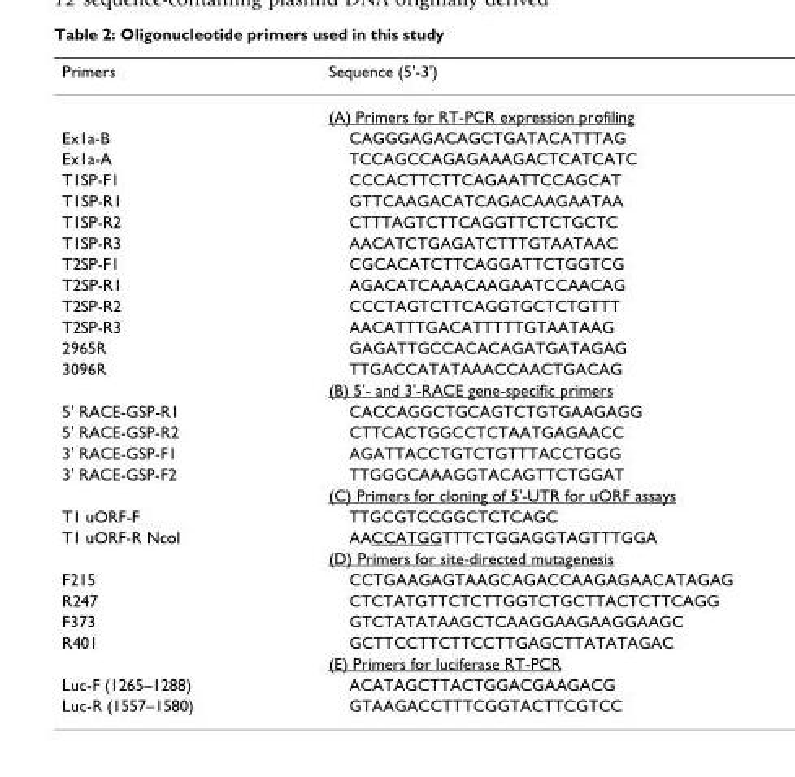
<table><thead><tr><td>Primers</td><td>Sequence (5&#x27;-3&#x27;)</td></tr></thead><tbody><tr><td></td><td>(A) Primers for RT-PCR expression profiling</td></tr><tr><td>Ex1a-B</td><td>CAGGGAGACAGCTGATACATTTAG</td></tr><tr><td>Ex1a-A</td><td>TCCAGCCAGAGAAAGACTCATCATC</td></tr><tr><td>T1SP-F1</td><td>CCCACTTCTTCAGAATTCCAGCAT</td></tr><tr><td>T1SP-R1</td><td>GTTCAAGACATCAGACAAGAATAA</td></tr><tr><td>T1SP-R2</td><td>CTTTAGTCTTCAGGTTCTCTGCTC</td></tr><tr><td>T1SP-R3</td><td>AACATCTGAGATCTTTGTAATAAC</td></tr><tr><td>T2SP-F1</td><td>CGCACATCTTCAGGATTCTGGTCG</td></tr><tr><td>T2SP-R1</td><td>AGACATCAAACAAGAATCCAACAG</td></tr><tr><td>T2SP-R2</td><td>CCCTAGTCTTCAGGTGCTCTGTTT</td></tr><tr><td>T2SP-R3</td><td>AACATTTGACATTTTTGTAATAAG</td></tr><tr><td>2965R</td><td>GAGATTGCCACACAGATGATAGAG</td></tr><tr><td rowspan="2">3096R</td><td>TTGACCATATAAACCAACTGACAG</td></tr><tr><td>(B) 5&#x27;- and 3&#x27;-RACE gene-specific primers</td></tr><tr><td>5&#x27; RACE-GSP-R1</td><td>CACCAGGCTGCAGTCTGTGAAGAGG</td></tr><tr><td>5&#x27; RACE-GSP-R2</td><td>CTTCACTGGCCTCTAATGAGAACC</td></tr><tr><td>3&#x27; RACE-GSP-F1</td><td>AGATTACCTGTCTGTTTACCTGGG</td></tr><tr><td rowspan="2">3&#x27; RACE-GSP-F2</td><td>TTGGGCAAAGGTACAGTTCTGGAT</td></tr><tr><td>(C) Primers for cloning of 5&#x27;-UTR for uORF assays</td></tr><tr><td>T1 uORF-F</td><td>TTGCGTCCGGCTCTCAGC</td></tr><tr><td rowspan="2">T1 uORF-R NcoI</td><td>AACCATGGTTTCTGGAGGTAGTTTGGA</td></tr><tr><td>(D) Primers for site-directed mutagenesis</td></tr><tr><td>F215</td><td>CCTGAAGAGTAAGCAGACCAAGAGAACATAGAG</td></tr><tr><td>R247</td><td>CTCTATGTTCTCTTGGTCTGCTTACTCTTCAGG</td></tr><tr><td>F373</td><td>GTCTATATAAGCTCAAGGAAGAAGGAAGC</td></tr><tr><td rowspan="2">R401</td><td>GCTTCCTTCTTCCTTGAGCTTATATAGAC</td></tr><tr><td>(E) Primers for luciferase RT-PCR</td></tr><tr><td>Luc-F (1265–1288)</td><td>ACATAGCTTACTGGACGAAGACG</td></tr><tr><td>Luc-R (1557–1580)</td><td>GTAAGACCTTTCGGTACTTCGTCC</td></tr></tbody></table>